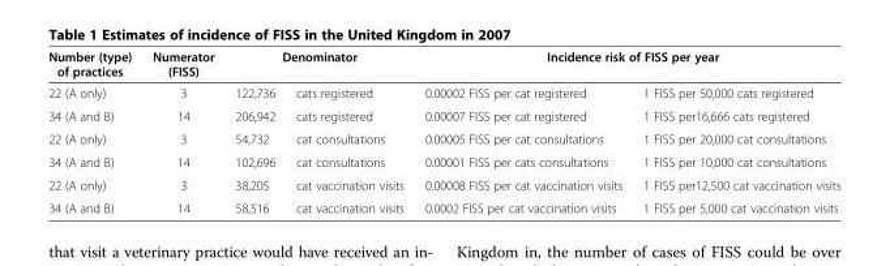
<table><thead><tr><td rowspan="2">Number (type) of practices 22 (A only)</td><td rowspan="2">Numerator (FISS) 3</td><td colspan="2">Denominator</td><td colspan="2">Incidence risk of FISS per year</td></tr><tr><td>122,736</td><td>cats registered</td><td>0.00002 FISS per cat registered</td><td>1 FISS per 50,000 cats registered</td></tr></thead><tbody><tr><td>34 (A and B)</td><td>14</td><td>206,942</td><td>cats registered</td><td>0.00007 FISS per cat registered</td><td>1 FISS per16,666 cats registered</td></tr><tr><td>22 (A only)</td><td>3</td><td>54,732</td><td>cat consultations</td><td>0.00005 FISS per cat consultations</td><td>1 FISS per 20,000 cat consultations</td></tr><tr><td>34 (A and B)</td><td>14</td><td>102,696</td><td>cat consultations</td><td>0.00001 FISS per cats consultations</td><td>1 FISS per 10,000 cat consultations</td></tr><tr><td>22 (A only)</td><td>3</td><td>38,205</td><td>cat vaccination visits</td><td>0.00008 FISS per cat vaccination visits</td><td>1 FISS per12,500 cat vaccination visits</td></tr><tr><td>34 (A and B)</td><td>14</td><td>58,516</td><td>cat vaccination visits</td><td>0.0002 FISS per cat vaccination visits</td><td>1 FISS per 5,000 cat vaccination visits</td></tr></tbody></table>